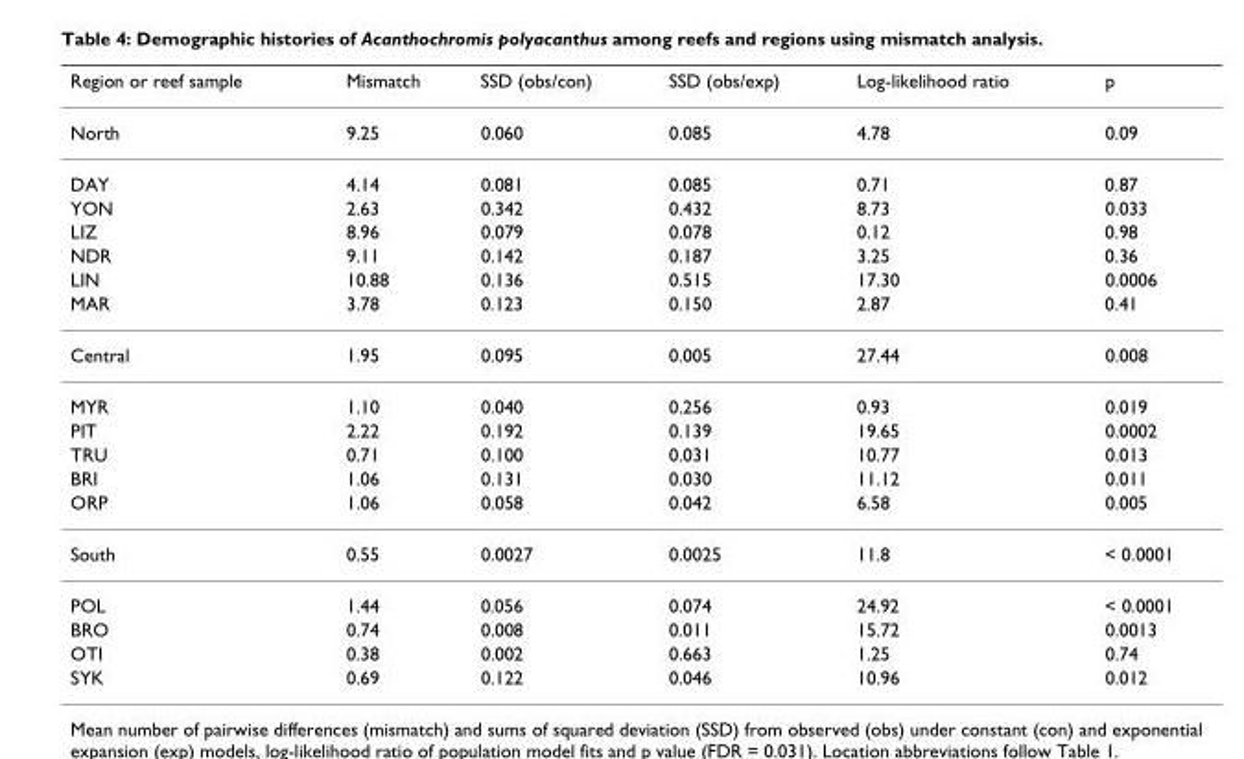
<table><thead><tr><td>Region or reef sample</td><td>Mismatch</td><td>SSD (obs/con)</td><td>SSD (obs/exp)</td><td>Log-likelihood ratio</td><td>p</td></tr></thead><tbody><tr><td>North</td><td>9.25</td><td>0.060</td><td>0.085</td><td>4.78</td><td>0.09</td></tr><tr><td>DAY</td><td>4.14</td><td>0.081</td><td>0.085</td><td>0.71</td><td>0.87</td></tr><tr><td>YON</td><td>2.63</td><td>0.342</td><td>0.432</td><td>8.73</td><td>0.033</td></tr><tr><td>LIZ</td><td>8.96</td><td>0.079</td><td>0.078</td><td>0.12</td><td>0.98</td></tr><tr><td>NDR</td><td>9.11</td><td>0.142</td><td>0.187</td><td>3.25</td><td>0.36</td></tr><tr><td>LIN</td><td>10.88</td><td>0.136</td><td>0.515</td><td>17.30</td><td>0.0006</td></tr><tr><td>MAR</td><td>3.78</td><td>0.123</td><td>0.150</td><td>2.87</td><td>0.41</td></tr><tr><td>Central</td><td>1.95</td><td>0.095</td><td>0.005</td><td>27.44</td><td>0.008</td></tr><tr><td>MYR</td><td>1.10</td><td>0.040</td><td>0.256</td><td>0.93</td><td>0.019</td></tr><tr><td>PIT</td><td>2.22</td><td>0.192</td><td>0.139</td><td>19.65</td><td>0.0002</td></tr><tr><td>TRU</td><td>0.71</td><td>0.100</td><td>0.031</td><td>10.77</td><td>0.013</td></tr><tr><td>BRI</td><td>1.06</td><td>0.131</td><td>0.030</td><td>11.12</td><td>0.011</td></tr><tr><td>ORP</td><td>1.06</td><td>0.058</td><td>0.042</td><td>6.58</td><td>0.005</td></tr><tr><td>South</td><td>0.55</td><td>0.0027</td><td>0.0025</td><td>11.8</td><td>&lt; 0.0001</td></tr><tr><td>POL</td><td>1.44</td><td>0.056</td><td>0.074</td><td>24.92</td><td>&lt; 0.0001</td></tr><tr><td>BRO</td><td>0.74</td><td>0.008</td><td>0.011</td><td>15.72</td><td>0.0013</td></tr><tr><td>OTI</td><td>0.38</td><td>0.002</td><td>0.663</td><td>1.25</td><td>0.74</td></tr><tr><td>SYK</td><td>0.69</td><td>0.122</td><td>0.046</td><td>10.96</td><td>0.012</td></tr></tbody></table>